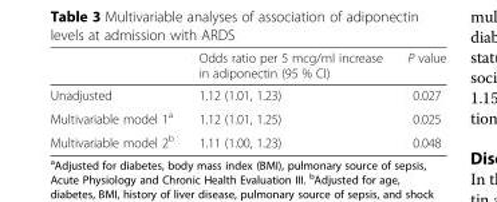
<table><thead><tr><td></td><td>Odds ratio per 5 mcg/ml increase in adiponectin (95 % CI)</td><td>P value</td></tr></thead><tbody><tr><td>Unadjusted</td><td>1.12 (1.01, 1.23)</td><td>0.027</td></tr><tr><td>Multivariable model 1<sup>a</sup></td><td>1.12 (1.01, 1.25)</td><td>0.025</td></tr><tr><td>Multivariable model 2<sup>b</sup></td><td>1.11 (1.00, 1.23)</td><td>0.048</td></tr></tbody></table>